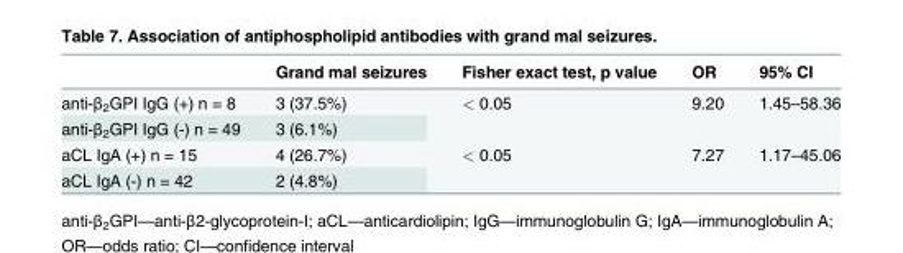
<table><thead><tr><td></td><td>Grand mal seizures</td><td>Fisher exact test, p value</td><td>OR</td><td>95% CI</td></tr></thead><tbody><tr><td>anti-β<sub>2</sub>GPI IgG (+) n = 8</td><td>3 (37.5%)</td><td rowspan="2">&lt; 0.05</td><td rowspan="2">9.20</td><td rowspan="2">1.45–58.36</td></tr><tr><td>anti-β<sub>2</sub>GPI IgG (-) n = 49</td><td>3 (6.1%)</td></tr><tr><td>aCL IgA (+) n = 15</td><td>4 (26.7%)</td><td rowspan="2">&lt; 0.05</td><td rowspan="2">7.27</td><td rowspan="2">1.17–45.06</td></tr><tr><td>aCL IgA (-) n = 42</td><td>2 (4.8%)</td></tr></tbody></table>